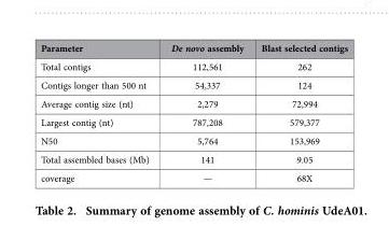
<table><thead><tr><td>Parameter</td><td>De novo assembly</td><td>Blast selected contigs</td></tr></thead><tbody><tr><td>Total contigs</td><td>112,561</td><td>262</td></tr><tr><td>Contigs longer than 500 nt</td><td>54,337</td><td>124</td></tr><tr><td>Average contig size (nt)</td><td>2,279</td><td>72,994</td></tr><tr><td>Largest contig (nt)</td><td>787,208</td><td>579,377</td></tr><tr><td>N50</td><td>5,764</td><td>153,969</td></tr><tr><td>Total assembled bases (Mb)</td><td>141</td><td>9.05</td></tr><tr><td>coverage</td><td>—</td><td>68X</td></tr></tbody></table>